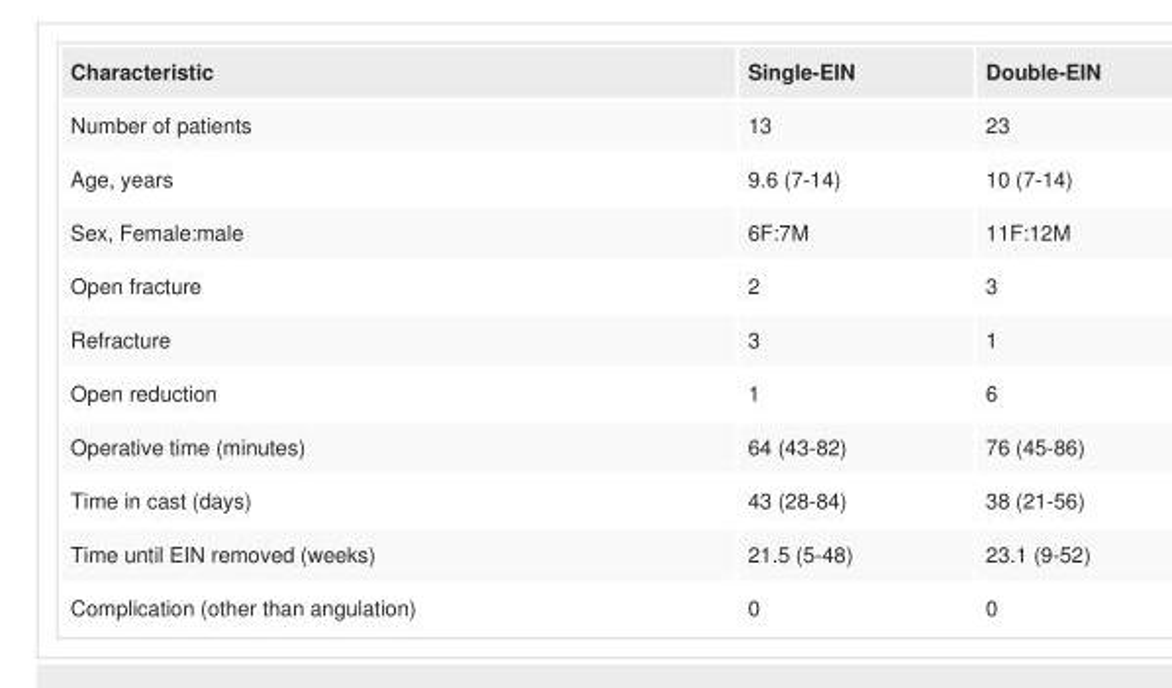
<table><tbody><tr><td>Characteristic</td><td>Single-EIN</td><td>Double-EIN</td></tr><tr><td>Number of patients</td><td>13</td><td>23</td></tr><tr><td>Age, years</td><td>9.6 (7-14)</td><td>10 (7-14)</td></tr><tr><td>Sex, Female:male</td><td>6F:7M</td><td>11F:12M</td></tr><tr><td>Open fracture</td><td>2</td><td>3</td></tr><tr><td>Refracture</td><td>3</td><td>1</td></tr><tr><td>Open reduction</td><td>1</td><td>6</td></tr><tr><td>Operative time (minutes)</td><td>64 (43-82)</td><td>76 (45-86)</td></tr><tr><td>Time in cast (days)</td><td>43 (28-84)</td><td>38 (21-56)</td></tr><tr><td>Time until EIN removed (weeks)</td><td>21.5 (5-48)</td><td>23.1 (9-52)</td></tr><tr><td>Complication (other than angulation)</td><td>0</td><td>0</td></tr></tbody></table>